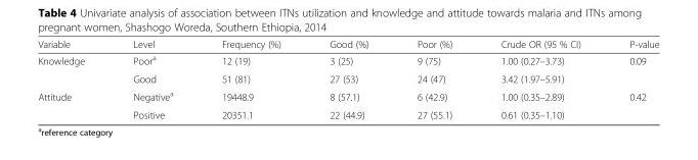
<table><thead><tr><td>Variable</td><td>Level</td><td>Frequency (%)</td><td>Good (%)</td><td>Poor (%)</td><td>Crude OR (95 % CI)</td><td>P-value</td></tr></thead><tbody><tr><td rowspan="2">Knowledge</td><td>Poor<sup>a</sup></td><td>12 (19)</td><td>3 (25)</td><td>9 (75)</td><td>1.00 (0.27–3.73)</td><td rowspan="2">0.09</td></tr><tr><td>Good</td><td>51 (81)</td><td>27 (53)</td><td>24 (47)</td><td>3.42 (1.97–5.91)</td></tr><tr><td rowspan="2">Attitude</td><td>Negative<sup>a</sup></td><td>19448.9</td><td>8 (57.1)</td><td>6 (42.9)</td><td>1.00 (0.35–2.89)</td><td rowspan="2">0.42</td></tr><tr><td>Positive</td><td>20351.1</td><td>22 (44.9)</td><td>27 (55.1)</td><td>0.61 (0.35–1.10)</td></tr></tbody></table>